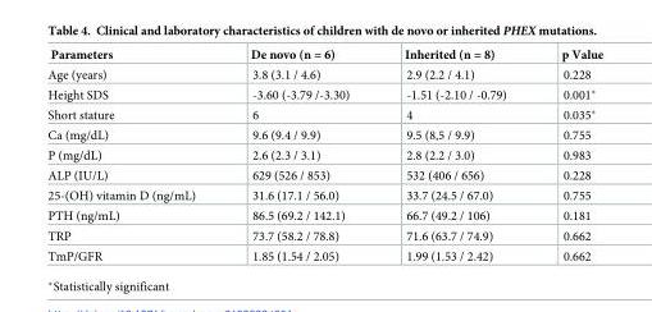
<table><thead><tr><td>Parameters</td><td>De novo (n = 6)</td><td>Inherited (n = 8)</td><td>p Value</td></tr></thead><tbody><tr><td>Age (years)</td><td>3.8 (3.1 / 4.6)</td><td>2.9 (2.2 / 4.1)</td><td>0.228</td></tr><tr><td>Height SDS</td><td>-3.60 (-3.79 /-3.30)</td><td>-1.51 (-2.10 / -0.79)</td><td>0.001*</td></tr><tr><td>Short stature</td><td>6</td><td>4</td><td>0.035*</td></tr><tr><td>Ca (mg/dL)</td><td>9.6 (9.4 / 9.9)</td><td>9.5 (8,5 / 9.9)</td><td>0.755</td></tr><tr><td>P (mg/dL)</td><td>2.6 (2.3 / 3.1)</td><td>2.8 (2.2 / 3.0)</td><td>0.983</td></tr><tr><td>ALP (IU/L)</td><td>629 (526 / 853)</td><td>532 (406 / 656)</td><td>0.228</td></tr><tr><td>25-(OH) vitamin D (ng/mL)</td><td>31.6 (17.1 / 56.0)</td><td>33.7 (24.5 / 67.0)</td><td>0.755</td></tr><tr><td>PTH (ng/mL)</td><td>86.5 (69.2 / 142.1)</td><td>66.7 (49.2 / 106)</td><td>0.181</td></tr><tr><td>TRP</td><td>73.7 (58.2 / 78.8)</td><td>71.6 (63.7 / 74.9)</td><td>0.662</td></tr><tr><td>TmP/GFR</td><td>1.85 (1.54 / 2.05)</td><td>1.99 (1.53 / 2.42)</td><td>0.662</td></tr></tbody></table>